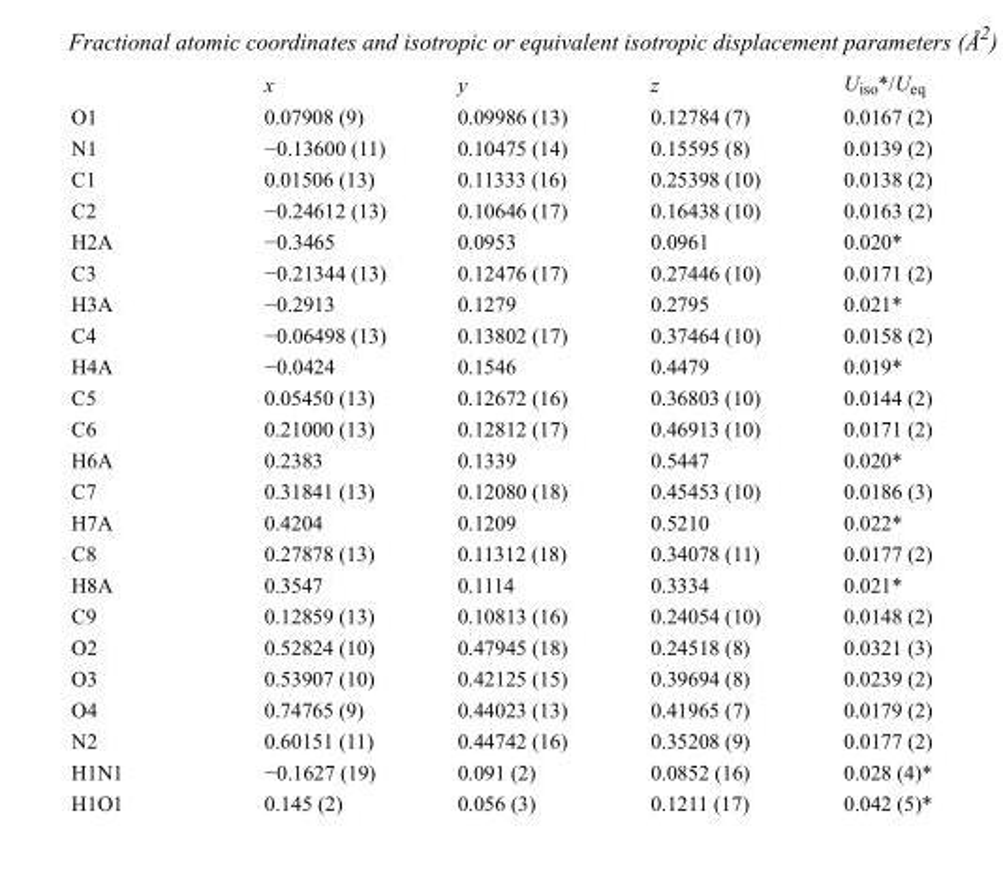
<table><thead><tr><td></td><td>x</td><td>y</td><td>z</td><td>U<sub>iso</sub>*/U<sub>eq</sub></td></tr></thead><tbody><tr><td>O1</td><td>0.07908 (9)</td><td>0.09986 (13)</td><td>0.12784 (7)</td><td>0.0167 (2)</td></tr><tr><td>N1</td><td>−0.13600 (11)</td><td>0.10475 (14)</td><td>0.15595 (8)</td><td>0.0139 (2)</td></tr><tr><td>C1</td><td>0.01506 (13)</td><td>0.11333 (16)</td><td>0.25398 (10)</td><td>0.0138 (2)</td></tr><tr><td>C2</td><td>−0.24612 (13)</td><td>0.10646 (17)</td><td>0.16438 (10)</td><td>0.0163 (2)</td></tr><tr><td>H2A</td><td>−0.3465</td><td>0.0953</td><td>0.0961</td><td>0.020*</td></tr><tr><td>C3</td><td>−0.21344 (13)</td><td>0.12476 (17)</td><td>0.27446 (10)</td><td>0.0171 (2)</td></tr><tr><td>H3A</td><td>−0.2913</td><td>0.1279</td><td>0.2795</td><td>0.021*</td></tr><tr><td>C4</td><td>−0.06498 (13)</td><td>0.13802 (17)</td><td>0.37464 (10)</td><td>0.0158 (2)</td></tr><tr><td>H4A</td><td>−0.0424</td><td>0.1546</td><td>0.4479</td><td>0.019*</td></tr><tr><td>C5</td><td>0.05450 (13)</td><td>0.12672 (16)</td><td>0.36803 (10)</td><td>0.0144 (2)</td></tr><tr><td>C6</td><td>0.21000 (13)</td><td>0.12812 (17)</td><td>0.46913 (10)</td><td>0.0171 (2)</td></tr><tr><td>H6A</td><td>0.2383</td><td>0.1339</td><td>0.5447</td><td>0.020*</td></tr><tr><td>C7</td><td>0.31841 (13)</td><td>0.12080 (18)</td><td>0.45453 (10)</td><td>0.0186 (3)</td></tr><tr><td>H7A</td><td>0.4204</td><td>0.1209</td><td>0.5210</td><td>0.022*</td></tr><tr><td>C8</td><td>0.27878 (13)</td><td>0.11312 (18)</td><td>0.34078 (11)</td><td>0.0177 (2)</td></tr><tr><td>H8A</td><td>0.3547</td><td>0.1114</td><td>0.3334</td><td>0.021*</td></tr><tr><td>C9</td><td>0.12859 (13)</td><td>0.10813 (16)</td><td>0.24054 (10)</td><td>0.0148 (2)</td></tr><tr><td>O2</td><td>0.52824 (10)</td><td>0.47945 (18)</td><td>0.24518 (8)</td><td>0.0321 (3)</td></tr><tr><td>O3</td><td>0.53907 (10)</td><td>0.42125 (15)</td><td>0.39694 (8)</td><td>0.0239 (2)</td></tr><tr><td>O4</td><td>0.74765 (9)</td><td>0.44023 (13)</td><td>0.41965 (7)</td><td>0.0179 (2)</td></tr><tr><td>N2</td><td>0.60151 (11)</td><td>0.44742 (16)</td><td>0.35208 (9)</td><td>0.0177 (2)</td></tr><tr><td>H1N1</td><td>−0.1627 (19)</td><td>0.091 (2)</td><td>0.0852 (16)</td><td>0.028 (4)*</td></tr><tr><td>H1O1</td><td>0.145 (2)</td><td>0.056 (3)</td><td>0.1211 (17)</td><td>0.042 (5)*</td></tr></tbody></table>